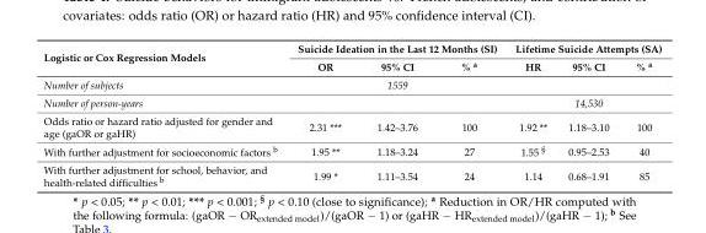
<table><thead><tr><td rowspan="2">Logistic or Cox Regression Models</td><td colspan="3">Suicide Ideation in the Last 12 Months (SI)</td><td colspan="3">Lifetime Suicide Attempts (SA)</td></tr><tr><td>OR</td><td>95% CI</td><td>% <sup>a</sup></td><td>HR</td><td>95% CI</td><td>% <sup>a</sup></td></tr></thead><tbody><tr><td>Number of subjects</td><td colspan="3">1559</td><td colspan="3"></td></tr><tr><td>Number of person-years</td><td colspan="3"></td><td colspan="3">14,530</td></tr><tr><td>Odds ratio or hazard ratio adjusted for gender and age (gaOR or gaHR)</td><td>2.31 ***</td><td>1.42–3.76</td><td>100</td><td>1.92 **</td><td>1.18–3.10</td><td>100</td></tr><tr><td>With further adjustment for socioeconomic factors <sup>b</sup></td><td>1.95 **</td><td>1.18–3.24</td><td>27</td><td>1.55 <sup>§</sup></td><td>0.95–2.53</td><td>40</td></tr><tr><td>With further adjustment for school, behavior, and health-related difficulties <sup>b</sup></td><td>1.99 *</td><td>1.11–3.54</td><td>24</td><td>1.14</td><td>0.68–1.91</td><td>85</td></tr></tbody></table>